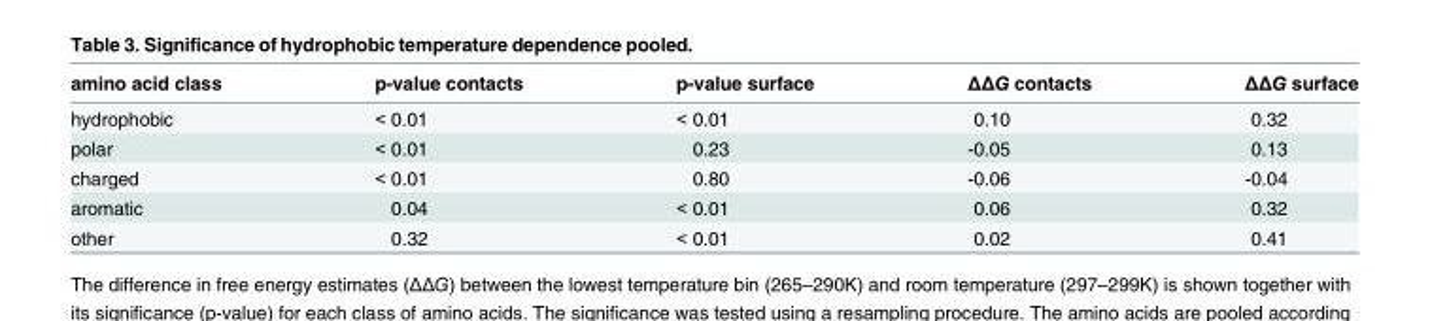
<table><thead><tr><td>amino acid class</td><td>p-value contacts</td><td>p-value surface</td><td>ΔΔG contacts</td><td>ΔΔG surface</td></tr></thead><tbody><tr><td>hydrophobic</td><td>&lt; 0.01</td><td>&lt; 0.01</td><td>0.10</td><td>0.32</td></tr><tr><td>polar</td><td>&lt; 0.01</td><td>0.23</td><td>-0.05</td><td>0.13</td></tr><tr><td>charged</td><td>&lt; 0.01</td><td>0.80</td><td>-0.06</td><td>-0.04</td></tr><tr><td>aromatic</td><td>0.04</td><td>&lt; 0.01</td><td>0.06</td><td>0.32</td></tr><tr><td>other</td><td>0.32</td><td>&lt; 0.01</td><td>0.02</td><td>0.41</td></tr></tbody></table>